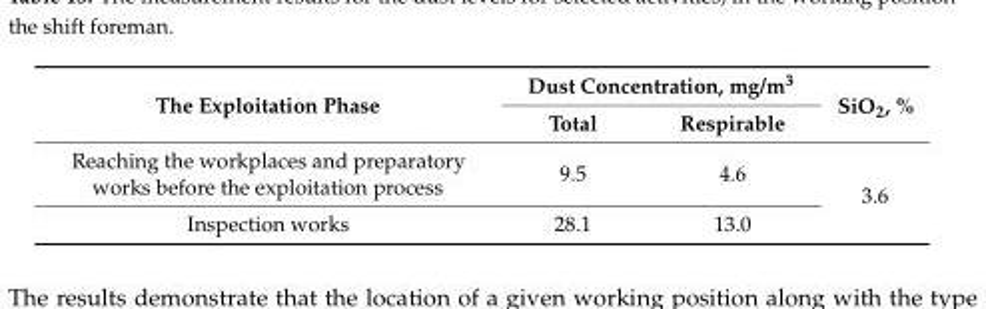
<table><thead><tr><td rowspan="2">The Exploitation Phase</td><td colspan="2">Dust Concentration, mg/m<sup>3</sup></td><td rowspan="2">SiO<sub>2</sub>, %</td></tr><tr><td>Total</td><td>Respirable</td></tr></thead><tbody><tr><td>Reaching the workplaces and preparatory works before the exploitation process</td><td>9.5</td><td>4.6</td><td rowspan="2">3.6</td></tr><tr><td>Inspection works</td><td>28.1</td><td>13.0</td></tr></tbody></table>